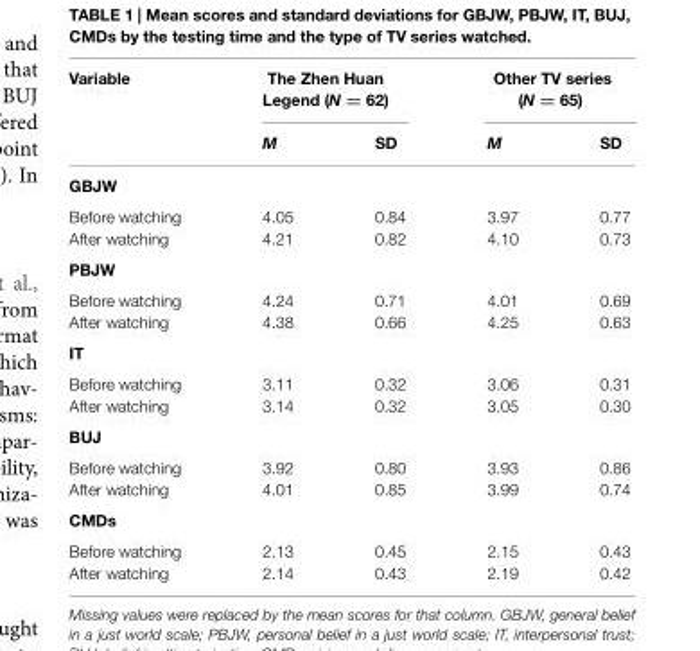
<table><thead><tr><td rowspan="2">Variable</td><td colspan="2">The Zhen Huan Legend (N = 62)</td><td colspan="2">Other TV series (N = 65)</td></tr><tr><td>M</td><td>SD</td><td>M</td><td>SD</td></tr></thead><tbody><tr><td colspan="5">GBJW</td></tr><tr><td>Before watching</td><td>4.05</td><td>0.84</td><td>3.97</td><td>0.77</td></tr><tr><td>After watching</td><td>4.21</td><td>0.82</td><td>4.10</td><td>0.73</td></tr><tr><td colspan="5">PBJW</td></tr><tr><td>Before watching</td><td>4.24</td><td>0.71</td><td>4.01</td><td>0.69</td></tr><tr><td>After watching</td><td>4.38</td><td>0.66</td><td>4.25</td><td>0.63</td></tr><tr><td colspan="5">IT</td></tr><tr><td>Before watching</td><td>3.11</td><td>0.32</td><td>3.06</td><td>0.31</td></tr><tr><td>After watching</td><td>3.14</td><td>0.32</td><td>3.05</td><td>0.30</td></tr><tr><td colspan="5">BUJ</td></tr><tr><td>Before watching</td><td>3.92</td><td>0.80</td><td>3.93</td><td>0.86</td></tr><tr><td>After watching</td><td>4.01</td><td>0.85</td><td>3.99</td><td>0.74</td></tr><tr><td colspan="5">CMDs</td></tr><tr><td>Before watching</td><td>2.13</td><td>0.45</td><td>2.15</td><td>0.43</td></tr><tr><td>After watching</td><td>2.14</td><td>0.43</td><td>2.19</td><td>0.42</td></tr></tbody></table>